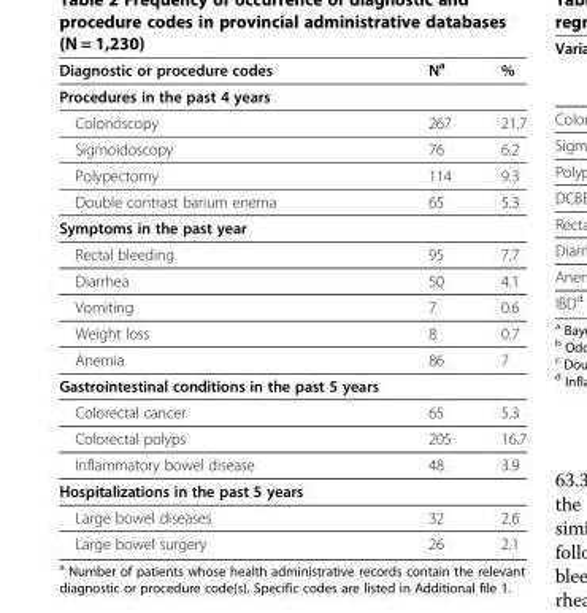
<table><thead><tr><td>Diagnostic or procedure codes</td><td>N<sup>a</sup></td><td>%</td></tr></thead><tbody><tr><td colspan="3">Procedures in the past 4 years</td></tr><tr><td>Colonoscopy</td><td>267</td><td>21.7</td></tr><tr><td>Sigmoidoscopy</td><td>76</td><td>6.2</td></tr><tr><td>Polypectomy</td><td>114</td><td>9.3</td></tr><tr><td>Double contrast barium enema</td><td>65</td><td>5.3</td></tr><tr><td colspan="3">Symptoms in the past year</td></tr><tr><td>Rectal bleeding</td><td>95</td><td>7.7</td></tr><tr><td>Diarrhea</td><td>50</td><td>4.1</td></tr><tr><td>Vomiting</td><td>7</td><td>0.6</td></tr><tr><td>Weight loss</td><td>8</td><td>0.7</td></tr><tr><td>Anemia</td><td>86</td><td>7</td></tr><tr><td colspan="3">Gastrointestinal conditions in the past 5 years</td></tr><tr><td>Colorectal cancer</td><td>65</td><td>5.3</td></tr><tr><td>Colorectal polyps</td><td>205</td><td>16.7</td></tr><tr><td>Inflammatory bowel disease</td><td>48</td><td>3.9</td></tr><tr><td colspan="3">Hospitalizations in the past 5 years</td></tr><tr><td>Large bowel diseases</td><td>32</td><td>2.6</td></tr><tr><td>Large bowel surgery</td><td>26</td><td>2.1</td></tr></tbody></table>